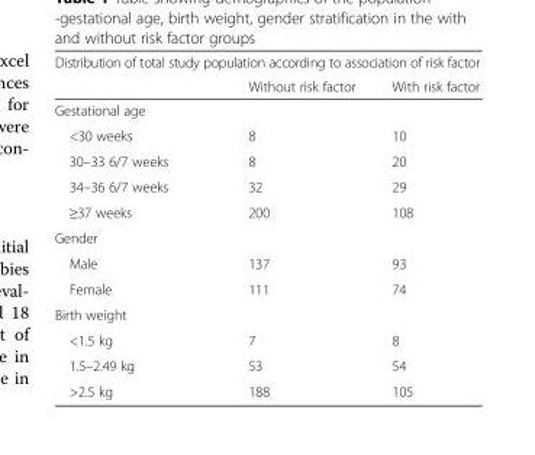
<table><thead><tr><td colspan="3">Distribution of total study population according to association of risk factor</td></tr><tr><td></td><td>Without risk factor</td><td>With risk factor</td></tr></thead><tbody><tr><td colspan="3">Gestational age</td></tr><tr><td>&lt;30 weeks</td><td>8</td><td>10</td></tr><tr><td>30–33 6/7 weeks</td><td>8</td><td>20</td></tr><tr><td>34–36 6/7 weeks</td><td>32</td><td>29</td></tr><tr><td>≥37 weeks</td><td>200</td><td>108</td></tr><tr><td colspan="3">Gender</td></tr><tr><td>Male</td><td>137</td><td>93</td></tr><tr><td>Female</td><td>111</td><td>74</td></tr><tr><td colspan="3">Birth weight</td></tr><tr><td>&lt;1.5 kg</td><td>7</td><td>8</td></tr><tr><td>1.5–2.49 kg</td><td>53</td><td>54</td></tr><tr><td>&gt;2.5 kg</td><td>188</td><td>105</td></tr></tbody></table>